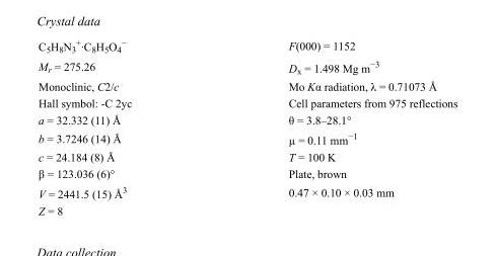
<table><tbody><tr><td>C<sub>5</sub>H<sub>8</sub>N<sub>3</sub> <sup>+</sup>·C<sub>8</sub>H<sub>5</sub>O<sub>4</sub> <sup>−</sup></td><td>F(000) = 1152</td></tr><tr><td>M<sub>r</sub> = 275.26</td><td>D<sub>x</sub> = 1.498 Mg m<sup>−3</sup></td></tr><tr><td>Monoclinic, C2/c</td><td>Mo Kα radiation, λ = 0.71073 Å</td></tr><tr><td>Hall symbol: -C 2yc</td><td>Cell parameters from 975 reflections</td></tr><tr><td>a = 32.332 (11) Å</td><td>θ = 3.8–28.1°</td></tr><tr><td>b = 3.7246 (14) Å</td><td>µ = 0.11 mm<sup>−1</sup></td></tr><tr><td>c = 24.184 (8) Å</td><td>T = 100 K</td></tr><tr><td>β = 123.036 (6)°</td><td>Plate, brown</td></tr><tr><td>V = 2441.5 (15) Å<sup>3</sup></td><td>0.47 × 0.10 × 0.03 mm</td></tr><tr><td>Z = 8</td><td></td></tr></tbody></table>